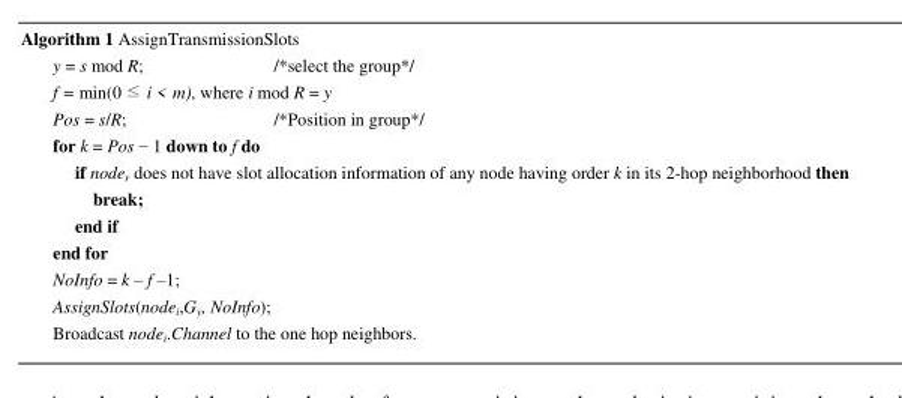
<table><tbody><tr><td>y = s mod R;</td><td>/*select the group*/</td></tr><tr><td colspan="2">f = min(0 ≤ i &lt; m), where i mod R = y</td></tr><tr><td>Pos = s/R;</td><td>/*Position in group*/</td></tr><tr><td colspan="2">for k = Pos − 1 down to f do</td></tr><tr><td colspan="2">if node<sub>r</sub> does not have slot allocation information of any node having order k in its 2-hop neighborhood then</td></tr><tr><td colspan="2">break;</td></tr><tr><td colspan="2">end if</td></tr><tr><td colspan="2">end for</td></tr><tr><td colspan="2">NoInfo = k – f –1;</td></tr><tr><td colspan="2">AssignSlots(node<sub>i</sub>,G<sub>y</sub>, NoInfo);</td></tr><tr><td colspan="2">Broadcast node<sub>i</sub>.Channel to the one hop neighbors.</td></tr></tbody></table>